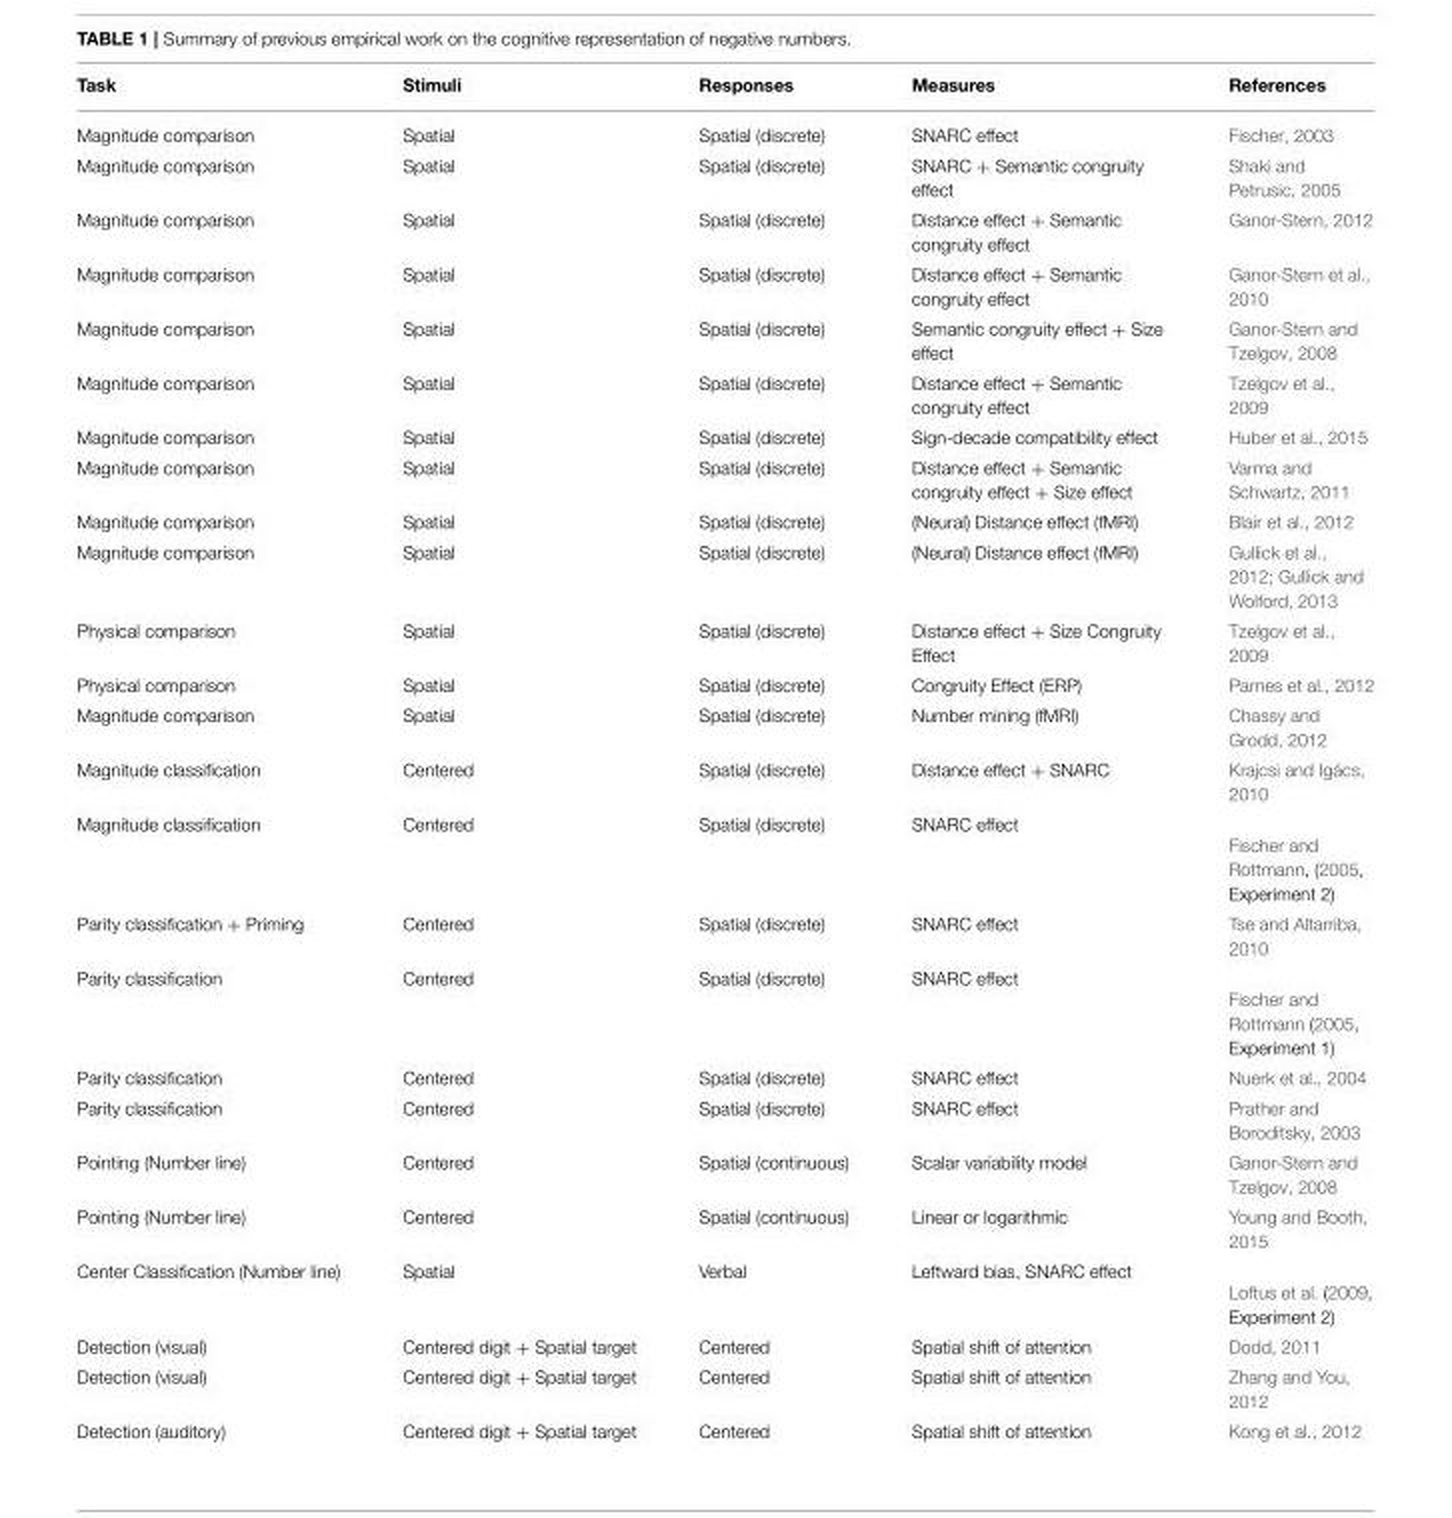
<table><thead><tr><td>Task</td><td>Stimuli</td><td>Responses</td><td>Measures</td><td>References</td></tr></thead><tbody><tr><td>Magnitude comparison</td><td>Spatial</td><td>Spatial (discrete)</td><td>SNARC effect</td><td>Fischer, 2003</td></tr><tr><td>Magnitude comparison</td><td>Spatial</td><td>Spatial (discrete)</td><td>SNARC + Semantic congruity effect</td><td>Shaki and Petrusic, 2005</td></tr><tr><td>Magnitude comparison</td><td>Spatial</td><td>Spatial (discrete)</td><td>Distance effect + Semantic congruity effect</td><td>Ganor-Stern, 2012</td></tr><tr><td>Magnitude comparison</td><td>Spatial</td><td>Spatial (discrete)</td><td>Distance effect + Semantic congruity effect</td><td>Ganor-Stern et al., 2010</td></tr><tr><td>Magnitude comparison</td><td>Spatial</td><td>Spatial (discrete)</td><td>Semantic congruity effect + Size effect</td><td>Ganor-Stern and Tzelgov, 2008</td></tr><tr><td>Magnitude comparison</td><td>Spatial</td><td>Spatial (discrete)</td><td>Distance effect + Semantic congruity effect</td><td>Tzelgov et al., 2009</td></tr><tr><td>Magnitude comparison</td><td>Spatial</td><td>Spatial (discrete)</td><td>Sign-decade compatibility effect</td><td>Huber et al., 2015</td></tr><tr><td>Magnitude comparison</td><td>Spatial</td><td>Spatial (discrete)</td><td>Distance effect + Semantic congruity effect + Size effect</td><td>Varma and Schwartz, 2011</td></tr><tr><td>Magnitude comparison</td><td>Spatial</td><td>Spatial (discrete)</td><td>(Neural) Distance effect (fMRI)</td><td>Blair et al., 2012</td></tr><tr><td>Magnitude comparison</td><td>Spatial</td><td>Spatial (discrete)</td><td>(Neural) Distance effect (fMRI)</td><td>Gullick et al., 2012; Gullick and Wolford, 2013</td></tr><tr><td>Physical comparison</td><td>Spatial</td><td>Spatial (discrete)</td><td>Distance effect + Size Congruity Effect</td><td>Tzelgov et al., 2009</td></tr><tr><td>Physical comparison</td><td>Spatial</td><td>Spatial (discrete)</td><td>Congruity Effect (ERP)</td><td>Parnes et al., 2012</td></tr><tr><td>Magnitude comparison</td><td>Spatial</td><td>Spatial (discrete)</td><td>Number mining (fMRI)</td><td>Chassy and Grodd, 2012</td></tr><tr><td>Magnitude classification</td><td>Centered</td><td>Spatial (discrete)</td><td>Distance effect + SNARC</td><td>Krajcsi and Igács, 2010</td></tr><tr><td>Magnitude classification</td><td>Centered</td><td>Spatial (discrete)</td><td>SNARC effect</td><td>Fischer and Rottmann, (2005, Experiment 2)</td></tr><tr><td>Parity classification + Priming</td><td>Centered</td><td>Spatial (discrete)</td><td>SNARC effect</td><td>Tse and Altarriba, 2010</td></tr><tr><td>Parity classification</td><td>Centered</td><td>Spatial (discrete)</td><td>SNARC effect</td><td>Fischer and Rottmann (2005, Experiment 1)</td></tr><tr><td>Parity classification</td><td>Centered</td><td>Spatial (discrete)</td><td>SNARC effect</td><td>Nuerk et al., 2004</td></tr><tr><td>Parity classification</td><td>Centered</td><td>Spatial (discrete)</td><td>SNARC effect</td><td>Prather and Boroditsky, 2003</td></tr><tr><td>Pointing (Number line)</td><td>Centered</td><td>Spatial (continuous)</td><td>Scalar variability model</td><td>Ganor-Stern and Tzelgov, 2008</td></tr><tr><td>Pointing (Number line)</td><td>Centered</td><td>Spatial (continuous)</td><td>Linear or logarithmic</td><td>Young and Booth, 2015</td></tr><tr><td>Center Classification (Number line)</td><td>Spatial</td><td>Verbal</td><td>Leftward bias, SNARC effect</td><td>Loftus et al. (2009, Experiment 2)</td></tr><tr><td>Detection (visual)</td><td>Centered digit + Spatial target</td><td>Centered</td><td>Spatial shift of attention</td><td>Dodd, 2011</td></tr><tr><td>Detection (visual)</td><td>Centered digit + Spatial target</td><td>Centered</td><td>Spatial shift of attention</td><td>Zhang and You, 2012</td></tr><tr><td>Detection (auditory)</td><td>Centered digit + Spatial target</td><td>Centered</td><td>Spatial shift of attention</td><td>Kong et al., 2012</td></tr></tbody></table>